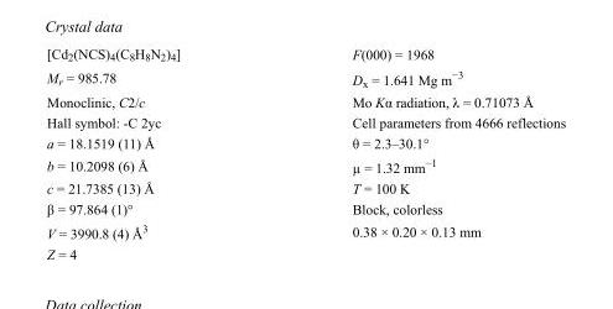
<table><tbody><tr><td>[Cd<sub>2</sub>(NCS)<sub>4</sub>(C<sub>8</sub>H<sub>8</sub>N<sub>2</sub>)<sub>4</sub>]</td><td>F(000) = 1968</td></tr><tr><td>M<sub>r</sub> = 985.78</td><td>D<sub>x</sub> = 1.641 Mg m<sup>−3</sup></td></tr><tr><td>Monoclinic, C2/c</td><td>Mo Kα radiation, λ = 0.71073 Å</td></tr><tr><td>Hall symbol: -C 2yc</td><td>Cell parameters from 4666 reflections</td></tr><tr><td>a = 18.1519 (11) Å</td><td>θ = 2.3–30.1°</td></tr><tr><td>b = 10.2098 (6) Å</td><td>µ = 1.32 mm<sup>−1</sup></td></tr><tr><td>c = 21.7385 (13) Å</td><td>T = 100 K</td></tr><tr><td>β = 97.864 (1)°</td><td>Block, colorless</td></tr><tr><td>V = 3990.8 (4) Å<sup>3</sup></td><td>0.38 × 0.20 × 0.13 mm</td></tr><tr><td>Z = 4</td><td></td></tr></tbody></table>